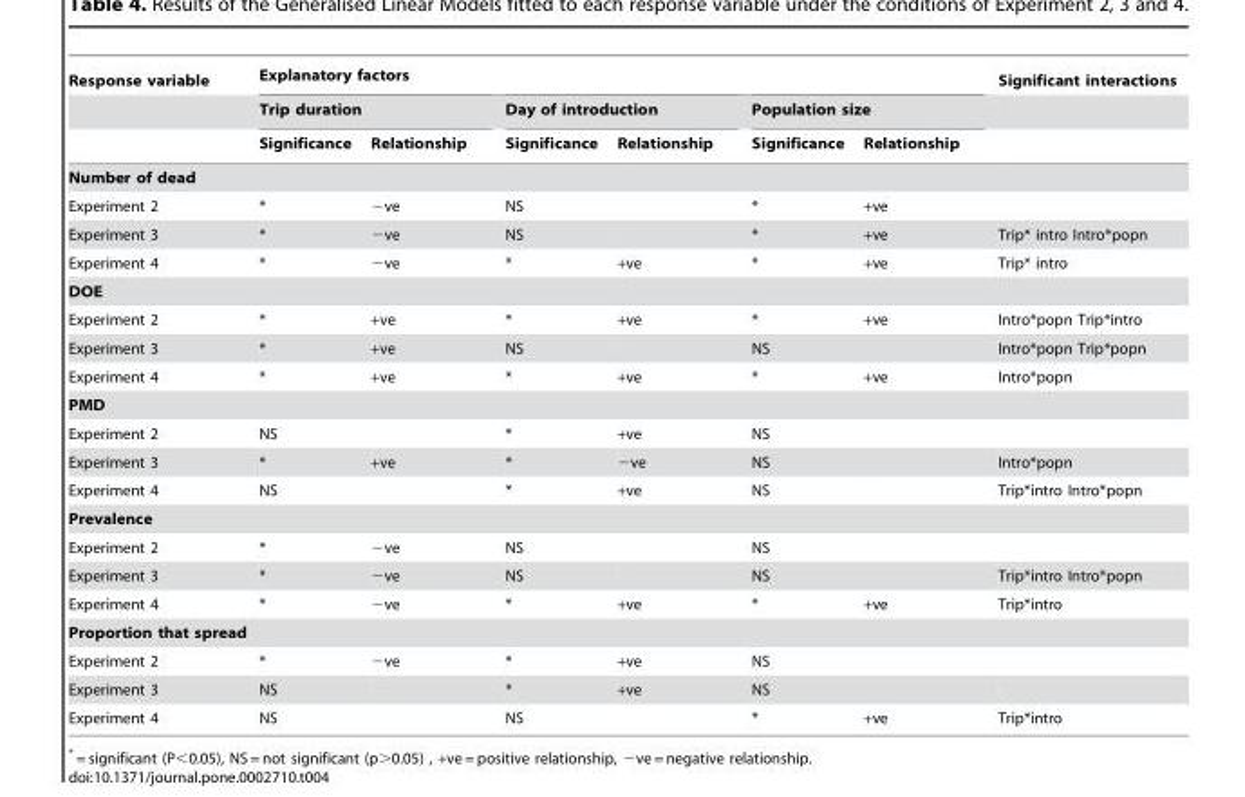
<table><thead><tr><td rowspan="3">Response variable</td><td colspan="6">Explanatory factors</td><td rowspan="3">Significant interactions</td></tr><tr><td colspan="2">Trip duration</td><td colspan="2">Day of introduction</td><td colspan="2">Population size</td></tr><tr><td>Significance</td><td>Relationship</td><td>Significance</td><td>Relationship</td><td>Significance</td><td>Relationship</td></tr></thead><tbody><tr><td colspan="8">Number of dead</td></tr><tr><td>Experiment 2</td><td>*</td><td>−ve</td><td>NS</td><td></td><td>*</td><td>+ve</td><td></td></tr><tr><td>Experiment 3</td><td>*</td><td>−ve</td><td>NS</td><td></td><td>*</td><td>+ve</td><td>Trip* intro Intro*popn</td></tr><tr><td>Experiment 4</td><td>*</td><td>−ve</td><td>*</td><td>+ve</td><td>*</td><td>+ve</td><td>Trip* intro</td></tr><tr><td colspan="8">DOE</td></tr><tr><td>Experiment 2</td><td>*</td><td>+ve</td><td>*</td><td>+ve</td><td>*</td><td>+ve</td><td>Intro*popn Trip*intro</td></tr><tr><td>Experiment 3</td><td>*</td><td>+ve</td><td>NS</td><td></td><td>NS</td><td></td><td>Intro*popn Trip*popn</td></tr><tr><td>Experiment 4</td><td>*</td><td>+ve</td><td>*</td><td>+ve</td><td>*</td><td>+ve</td><td>Intro*popn</td></tr><tr><td colspan="8">PMD</td></tr><tr><td>Experiment 2</td><td>NS</td><td></td><td>*</td><td>+ve</td><td>NS</td><td></td><td></td></tr><tr><td>Experiment 3</td><td>*</td><td>+ve</td><td>*</td><td>−ve</td><td>NS</td><td></td><td>Intro*popn</td></tr><tr><td>Experiment 4</td><td>NS</td><td></td><td>*</td><td>+ve</td><td>NS</td><td></td><td>Trip*intro Intro*popn</td></tr><tr><td colspan="8">Prevalence</td></tr><tr><td>Experiment 2</td><td>*</td><td>−ve</td><td>NS</td><td></td><td>NS</td><td></td><td></td></tr><tr><td>Experiment 3</td><td>*</td><td>−ve</td><td>NS</td><td></td><td>NS</td><td></td><td>Trip*intro Intro*popn</td></tr><tr><td>Experiment 4</td><td>*</td><td>−ve</td><td>*</td><td>+ve</td><td>*</td><td>+ve</td><td>Trip*intro</td></tr><tr><td colspan="8">Proportion that spread</td></tr><tr><td>Experiment 2</td><td>*</td><td>−ve</td><td>*</td><td>+ve</td><td>NS</td><td></td><td></td></tr><tr><td>Experiment 3</td><td>NS</td><td></td><td>*</td><td>+ve</td><td>NS</td><td></td><td></td></tr><tr><td>Experiment 4</td><td>NS</td><td></td><td>NS</td><td></td><td>*</td><td>+ve</td><td>Trip*intro</td></tr></tbody></table>